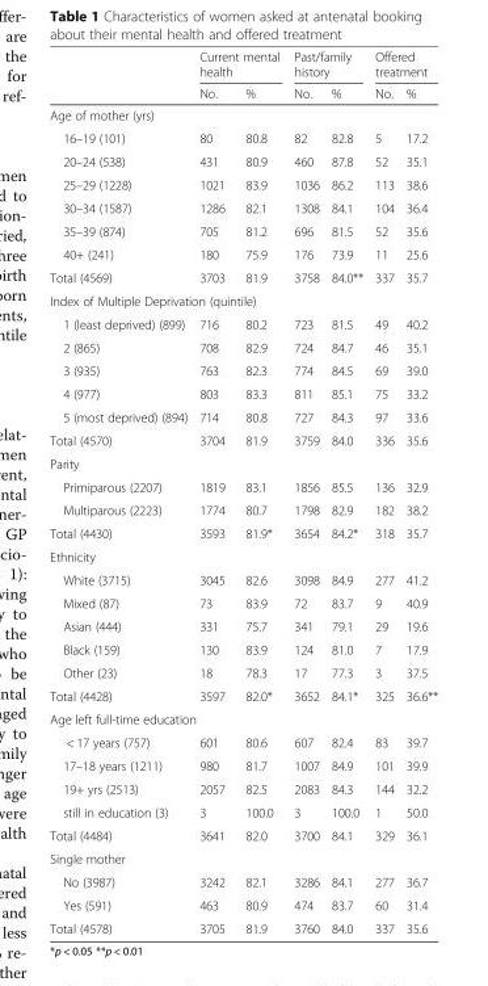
<table><thead><tr><td rowspan="2"></td><td colspan="2">Current mental health</td><td colspan="2">Past/family history</td><td colspan="2">Offered treatment</td></tr><tr><td>No.</td><td>%</td><td>No.</td><td>%</td><td>No.</td><td>%</td></tr></thead><tbody><tr><td colspan="7">Age of mother (yrs)</td></tr><tr><td>16–19 (101)</td><td>80</td><td>80.8</td><td>82</td><td>82.8</td><td>5</td><td>17.2</td></tr><tr><td>20–24 (538)</td><td>431</td><td>80.9</td><td>460</td><td>87.8</td><td>52</td><td>35.1</td></tr><tr><td>25–29 (1228)</td><td>1021</td><td>83.9</td><td>1036</td><td>86.2</td><td>113</td><td>38.6</td></tr><tr><td>30–34 (1587)</td><td>1286</td><td>82.1</td><td>1308</td><td>84.1</td><td>104</td><td>36.4</td></tr><tr><td>35–39 (874)</td><td>705</td><td>81.2</td><td>696</td><td>81.5</td><td>52</td><td>35.6</td></tr><tr><td>40+ (241)</td><td>180</td><td>75.9</td><td>176</td><td>73.9</td><td>11</td><td>25.6</td></tr><tr><td>Total (4569)</td><td>3703</td><td>81.9</td><td>3758</td><td>84.0**</td><td>337</td><td>35.7</td></tr><tr><td colspan="7">Index of Multiple Deprivation (quintile)</td></tr><tr><td>1 (least deprived) (899)</td><td>716</td><td>80.2</td><td>723</td><td>81.5</td><td>49</td><td>40.2</td></tr><tr><td>2 (865)</td><td>708</td><td>82.9</td><td>724</td><td>84.7</td><td>46</td><td>35.1</td></tr><tr><td>3 (935)</td><td>763</td><td>82.3</td><td>774</td><td>84.5</td><td>69</td><td>39.0</td></tr><tr><td>4 (977)</td><td>803</td><td>83.3</td><td>811</td><td>85.1</td><td>75</td><td>33.2</td></tr><tr><td>5 (most deprived) (894)</td><td>714</td><td>80.8</td><td>727</td><td>84.3</td><td>97</td><td>33.6</td></tr><tr><td>Total (4570)</td><td>3704</td><td>81.9</td><td>3759</td><td>84.0</td><td>336</td><td>35.6</td></tr><tr><td colspan="7">Parity</td></tr><tr><td>Primiparous (2207)</td><td>1819</td><td>83.1</td><td>1856</td><td>85.5</td><td>136</td><td>32.9</td></tr><tr><td>Multiparous (2223)</td><td>1774</td><td>80.7</td><td>1798</td><td>82.9</td><td>182</td><td>38.2</td></tr><tr><td>Total (4430)</td><td>3593</td><td>81.9*</td><td>3654</td><td>84.2*</td><td>318</td><td>35.7</td></tr><tr><td colspan="7">Ethnicity</td></tr><tr><td>White (3715)</td><td>3045</td><td>82.6</td><td>3098</td><td>84.9</td><td>277</td><td>41.2</td></tr><tr><td>Mixed (87)</td><td>73</td><td>83.9</td><td>72</td><td>83.7</td><td>9</td><td>40.9</td></tr><tr><td>Asian (444)</td><td>331</td><td>75.7</td><td>341</td><td>79.1</td><td>29</td><td>19.6</td></tr><tr><td>Black (159)</td><td>130</td><td>83.9</td><td>124</td><td>81.0</td><td>7</td><td>17.9</td></tr><tr><td>Other (23)</td><td>18</td><td>78.3</td><td>17</td><td>77.3</td><td>3</td><td>37.5</td></tr><tr><td>Total (4428)</td><td>3597</td><td>82.0*</td><td>3652</td><td>84.1*</td><td>325</td><td>36.6**</td></tr><tr><td colspan="7">Age left full-time education</td></tr><tr><td>&lt; 17 years (757)</td><td>601</td><td>80.6</td><td>607</td><td>82.4</td><td>83</td><td>39.7</td></tr><tr><td>17–18 years (1211)</td><td>980</td><td>81.7</td><td>1007</td><td>84.9</td><td>101</td><td>39.9</td></tr><tr><td>19+ yrs (2513)</td><td>2057</td><td>82.5</td><td>2083</td><td>84.3</td><td>144</td><td>32.2</td></tr><tr><td>still in education (3)</td><td>3</td><td>100.0</td><td>3</td><td>100.0</td><td>1</td><td>50.0</td></tr><tr><td>Total (4484)</td><td>3641</td><td>82.0</td><td>3700</td><td>84.1</td><td>329</td><td>36.1</td></tr><tr><td colspan="7">Single mother</td></tr><tr><td>No (3987)</td><td>3242</td><td>82.1</td><td>3286</td><td>84.1</td><td>277</td><td>36.7</td></tr><tr><td>Yes (591)</td><td>463</td><td>80.9</td><td>474</td><td>83.7</td><td>60</td><td>31.4</td></tr><tr><td>Total (4578)</td><td>3705</td><td>81.9</td><td>3760</td><td>84.0</td><td>337</td><td>35.6</td></tr></tbody></table>